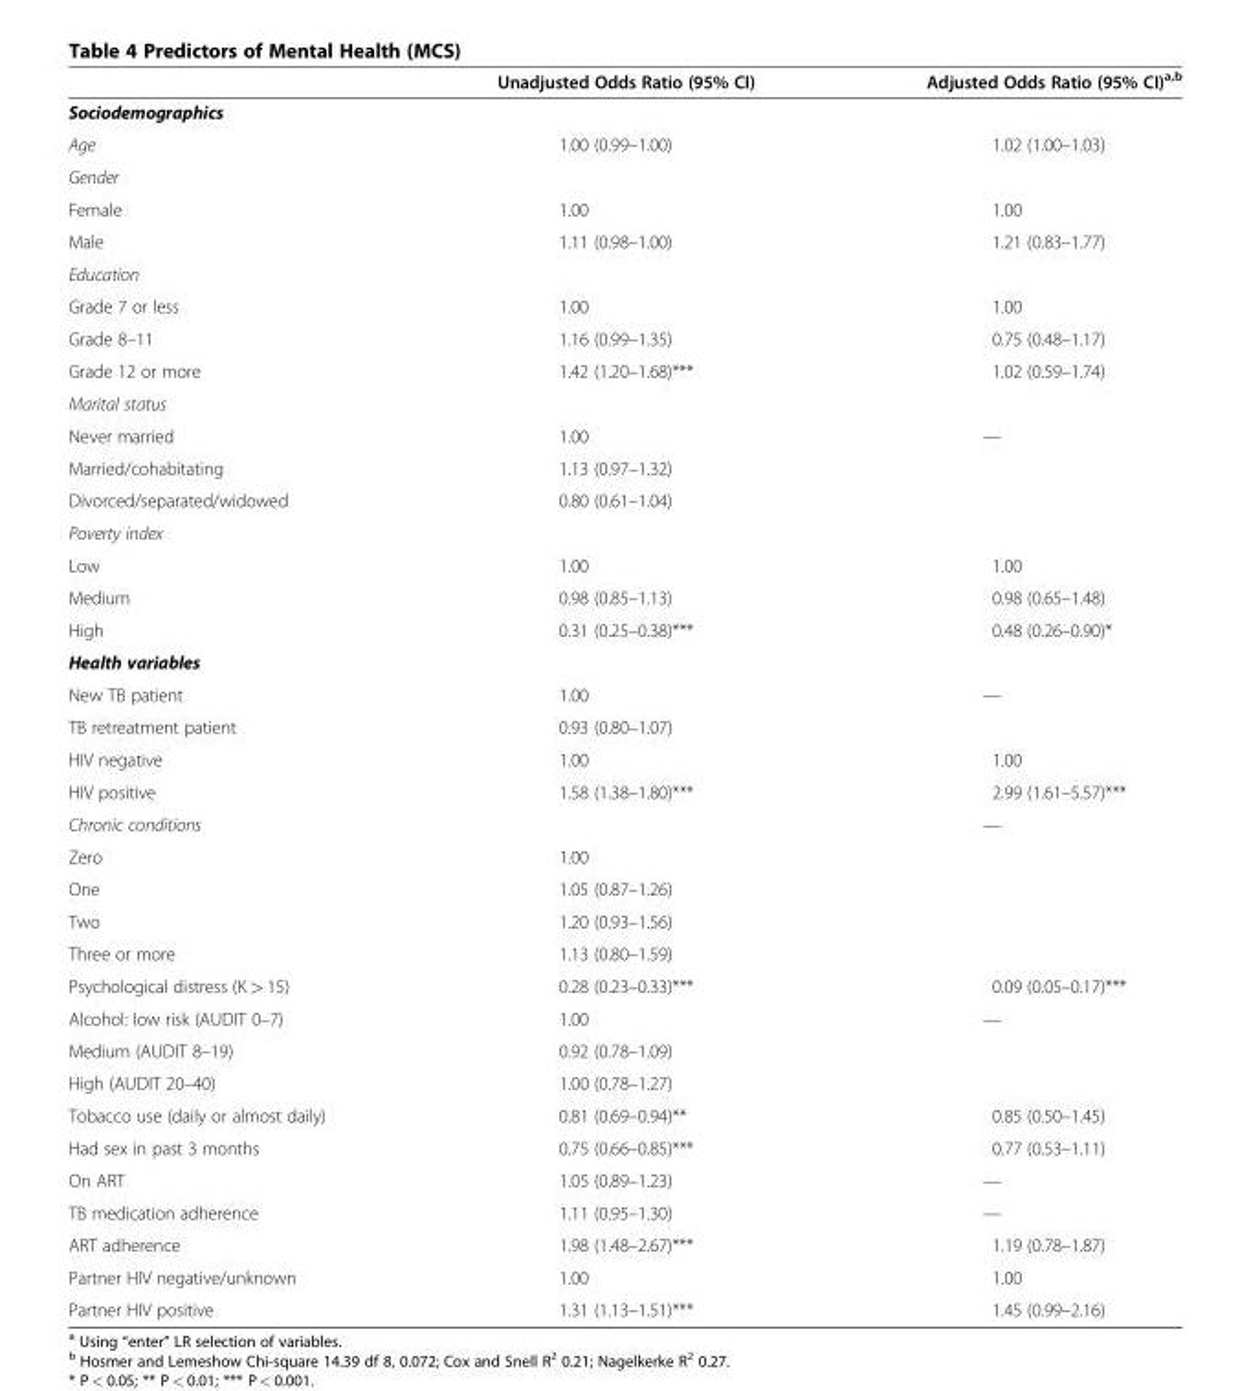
<table><thead><tr><td></td><td>Unadjusted Odds Ratio (95% CI)</td><td>Adjusted Odds Ratio (95% CI)<sup>a,b</sup></td></tr></thead><tbody><tr><td colspan="3">Sociodemographics</td></tr><tr><td>Age</td><td>1.00 (0.99–1.00)</td><td>1.02 (1.00–1.03)</td></tr><tr><td colspan="3">Gender</td></tr><tr><td>Female</td><td>1.00</td><td>1.00</td></tr><tr><td>Male</td><td>1.11 (0.98–1.00)</td><td>1.21 (0.83–1.77)</td></tr><tr><td colspan="3">Education</td></tr><tr><td>Grade 7 or less</td><td>1.00</td><td>1.00</td></tr><tr><td>Grade 8–11</td><td>1.16 (0.99–1.35)</td><td>0.75 (0.48–1.17)</td></tr><tr><td>Grade 12 or more</td><td>1.42 (1.20–1.68)***</td><td>1.02 (0.59–1.74)</td></tr><tr><td colspan="3">Marital status</td></tr><tr><td>Never married</td><td>1.00</td><td>—</td></tr><tr><td>Married/cohabitating</td><td>1.13 (0.97–1.32)</td><td></td></tr><tr><td>Divorced/separated/widowed</td><td>0.80 (0.61–1.04)</td><td></td></tr><tr><td colspan="3">Poverty index</td></tr><tr><td>Low</td><td>1.00</td><td>1.00</td></tr><tr><td>Medium</td><td>0.98 (0.85–1.13)</td><td>0.98 (0.65–1.48)</td></tr><tr><td>High</td><td>0.31 (0.25–0.38)***</td><td>0.48 (0.26–0.90)*</td></tr><tr><td colspan="3">Health variables</td></tr><tr><td>New TB patient</td><td>1.00</td><td>—</td></tr><tr><td>TB retreatment patient</td><td>0.93 (0.80–1.07)</td><td></td></tr><tr><td>HIV negative</td><td>1.00</td><td>1.00</td></tr><tr><td>HIV positive</td><td>1.58 (1.38–1.80)***</td><td>2.99 (1.61–5.57)***</td></tr><tr><td colspan="3">Chronic conditions —</td></tr><tr><td>Zero</td><td>1.00</td><td></td></tr><tr><td>One</td><td>1.05 (0.87–1.26)</td><td></td></tr><tr><td>Two</td><td>1.20 (0.93–1.56)</td><td></td></tr><tr><td>Three or more</td><td>1.13 (0.80–1.59)</td><td></td></tr><tr><td>Psychological distress (K &gt; 15)</td><td>0.28 (0.23–0.33)***</td><td>0.09 (0.05–0.17)***</td></tr><tr><td>Alcohol: low risk (AUDIT 0–7)</td><td>1.00</td><td>—</td></tr><tr><td>Medium (AUDIT 8–19)</td><td>0.92 (0.78–1.09)</td><td></td></tr><tr><td>High (AUDIT 20–40)</td><td>1.00 (0.78–1.27)</td><td></td></tr><tr><td>Tobacco use (daily or almost daily)</td><td>0.81 (0.69–0.94)**</td><td>0.85 (0.50–1.45)</td></tr><tr><td>Had sex in past 3 months</td><td>0.75 (0.66–0.85)***</td><td>0.77 (0.53–1.11)</td></tr><tr><td>On ART</td><td>1.05 (0.89–1.23)</td><td>—</td></tr><tr><td>TB medication adherence</td><td>1.11 (0.95–1.30)</td><td>—</td></tr><tr><td>ART adherence</td><td>1.98 (1.48–2.67)***</td><td>1.19 (0.78–1.87)</td></tr><tr><td>Partner HIV negative/unknown</td><td>1.00</td><td>1.00</td></tr><tr><td>Partner HIV positive</td><td>1.31 (1.13–1.51)***</td><td>1.45 (0.99–2.16)</td></tr></tbody></table>